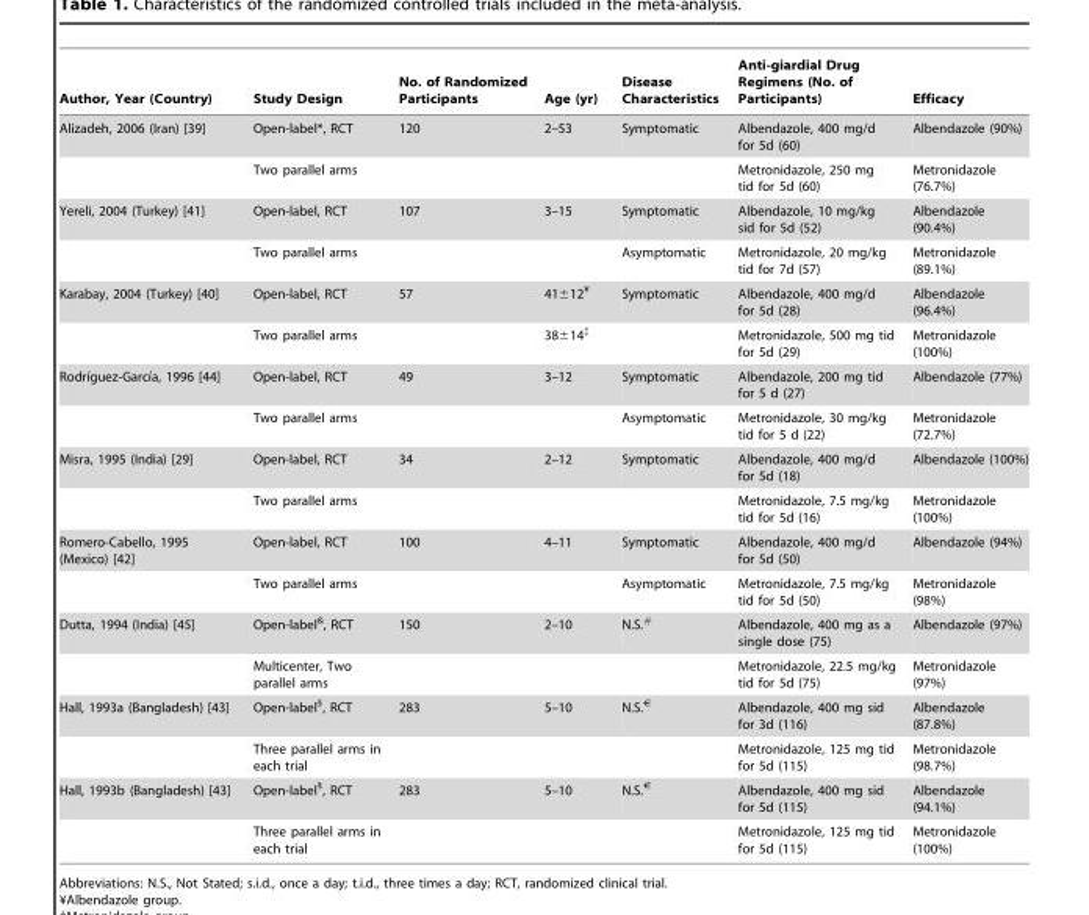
<table><thead><tr><td>Author, Year (Country)</td><td>Study Design</td><td>No. of Randomized Participants</td><td>Age (yr)</td><td>Disease Characteristics</td><td>Anti-giardial Drug Regimens (No. of Participants)</td><td>Efficacy</td></tr></thead><tbody><tr><td rowspan="2">Alizadeh, 2006 (Iran) [39]</td><td>Open-label*, RCT</td><td>120</td><td>2–53</td><td>Symptomatic</td><td>Albendazole, 400 mg/d for 5d (60)</td><td>Albendazole (90%)</td></tr><tr><td>Two parallel arms</td><td></td><td></td><td></td><td>Metronidazole, 250 mg tid for 5d (60)</td><td>Metronidazole (76.7%)</td></tr><tr><td rowspan="2">Yereli, 2004 (Turkey) [41]</td><td>Open-label, RCT</td><td>107</td><td>3–15</td><td>Symptomatic</td><td>Albendazole, 10 mg/kg sid for 5d (52)</td><td>Albendazole (90.4%)</td></tr><tr><td>Two parallel arms</td><td></td><td></td><td>Asymptomatic</td><td>Metronidazole, 20 mg/kg tid for 7d (57)</td><td>Metronidazole (89.1%)</td></tr><tr><td rowspan="2">Karabay, 2004 (Turkey) [40]</td><td>Open-label, RCT</td><td>57</td><td>41±12¥</td><td>Symptomatic</td><td>Albendazole, 400 mg/d for 5d (28)</td><td>Albendazole (96.4%)</td></tr><tr><td>Two parallel arms</td><td></td><td>38±14‡</td><td></td><td>Metronidazole, 500 mg tid for 5d (29)</td><td>Metronidazole (100%)</td></tr><tr><td rowspan="2">Rodrı´guez-Garcı´a, 1996 [44]</td><td>Open-label, RCT</td><td>49</td><td>3–12</td><td>Symptomatic</td><td>Albendazole, 200 mg tid for 5 d (27)</td><td>Albendazole (77%)</td></tr><tr><td>Two parallel arms</td><td></td><td></td><td>Asymptomatic</td><td>Metronidazole, 30 mg/kg tid for 5 d (22)</td><td>Metronidazole (72.7%)</td></tr><tr><td rowspan="2">Misra, 1995 (India) [29]</td><td>Open-label, RCT</td><td>34</td><td>2–12</td><td>Symptomatic</td><td>Albendazole, 400 mg/d for 5d (18)</td><td>Albendazole (100%)</td></tr><tr><td>Two parallel arms</td><td></td><td></td><td></td><td>Metronidazole, 7.5 mg/kg tid for 5d (16)</td><td>Metronidazole (100%)</td></tr><tr><td rowspan="2">Romero-Cabello, 1995 (Mexico) [42]</td><td>Open-label, RCT</td><td>100</td><td>4–11</td><td>Symptomatic</td><td>Albendazole, 400 mg/d for 5d (50)</td><td>Albendazole (94%)</td></tr><tr><td>Two parallel arms</td><td></td><td></td><td>Asymptomatic</td><td>Metronidazole, 7.5 mg/kg tid for 5d (50)</td><td>Metronidazole (98%)</td></tr><tr><td rowspan="2">Dutta, 1994 (India) [45]</td><td>Open-label&amp;, RCT</td><td>150</td><td>2–10</td><td>N.S.#</td><td>Albendazole, 400 mg as a single dose (75)</td><td>Albendazole (97%)</td></tr><tr><td>Multicenter, Two parallel arms</td><td></td><td></td><td></td><td>Metronidazole, 22.5 mg/kg tid for 5d (75)</td><td>Metronidazole (97%)</td></tr><tr><td rowspan="2">Hall, 1993a (Bangladesh) [43]</td><td>Open-label§, RCT</td><td>283</td><td>5–10</td><td>N.S.€</td><td>Albendazole, 400 mg sid for 3d (116)</td><td>Albendazole (87.8%)</td></tr><tr><td>Three parallel arms in each trial</td><td></td><td></td><td></td><td>Metronidazole, 125 mg tid for 5d (115)</td><td>Metronidazole (98.7%)</td></tr><tr><td rowspan="2">Hall, 1993b (Bangladesh) [43]</td><td>Open-label§, RCT</td><td>283</td><td>5–10</td><td>N.S.€</td><td>Albendazole, 400 mg sid for 5d (115)</td><td>Albendazole (94.1%)</td></tr><tr><td>Three parallel arms in each trial</td><td></td><td></td><td></td><td>Metronidazole, 125 mg tid for 5d (115)</td><td>Metronidazole (100%)</td></tr></tbody></table>